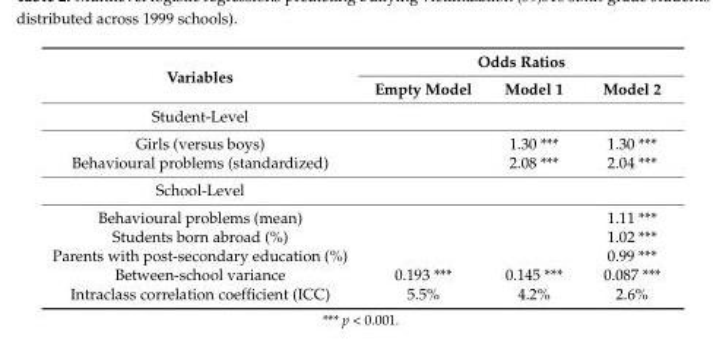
<table><thead><tr><td rowspan="2">Variables</td><td colspan="3">Odds Ratios</td></tr><tr><td>Empty Model</td><td>Model 1</td><td>Model 2</td></tr></thead><tbody><tr><td colspan="4">Student-Level</td></tr><tr><td>Girls (versus boys)</td><td></td><td>1.30 ***</td><td>1.30 ***</td></tr><tr><td>Behavioural problems (standardized)</td><td></td><td>2.08 ***</td><td>2.04 ***</td></tr><tr><td colspan="4">School-Level</td></tr><tr><td>Behavioural problems (mean)</td><td></td><td></td><td>1.11 ***</td></tr><tr><td>Students born abroad (%)</td><td></td><td></td><td>1.02 ***</td></tr><tr><td>Parents with post-secondary education (%)</td><td></td><td></td><td>0.99 ***</td></tr><tr><td>Between-school variance</td><td>0.193 ***</td><td>0.145 ***</td><td>0.087 ***</td></tr><tr><td>Intraclass correlation coefficient (ICC)</td><td>5.5%</td><td>4.2%</td><td>2.6%</td></tr></tbody></table>